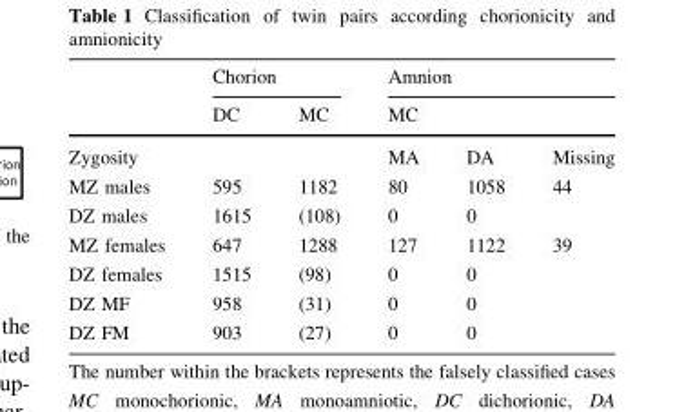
<table><thead><tr><td rowspan="3">Zygosity</td><td colspan="2">Chorion</td><td rowspan="2" colspan="3">Amnion MC</td></tr><tr><td rowspan="2">DC</td><td rowspan="2">MC</td></tr><tr><td>MA</td><td>DA</td><td>Missing</td></tr></thead><tbody><tr><td>MZ males</td><td>595</td><td>1182</td><td>80</td><td>1058</td><td>44</td></tr><tr><td>DZ males</td><td>1615</td><td>(108)</td><td>0</td><td>0</td><td></td></tr><tr><td>MZ females</td><td>647</td><td>1288</td><td>127</td><td>1122</td><td>39</td></tr><tr><td>DZ females</td><td>1515</td><td>(98)</td><td>0</td><td>0</td><td></td></tr><tr><td>DZ MF</td><td>958</td><td>(31)</td><td>0</td><td>0</td><td></td></tr><tr><td>DZ FM</td><td>903</td><td>(27)</td><td>0</td><td>0</td><td></td></tr></tbody></table>